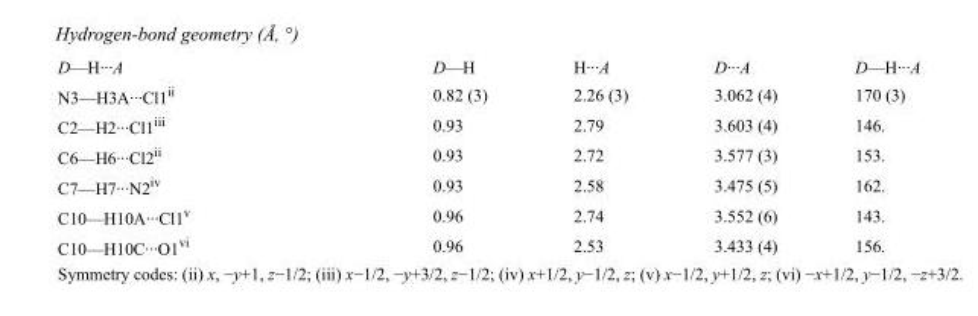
<table><tbody><tr><td>D—H···A</td><td>D—H</td><td>H···A</td><td>D···A</td><td>D—H···A</td></tr><tr><td>N3—H3A···Cl1<sup>ii</sup></td><td>0.82 (3)</td><td>2.26 (3)</td><td>3.062 (4)</td><td>170 (3)</td></tr><tr><td>C2—H2···Cl1<sup>iii</sup></td><td>0.93</td><td>2.79</td><td>3.603 (4)</td><td>146.</td></tr><tr><td>C6—H6···Cl2<sup>ii</sup></td><td>0.93</td><td>2.72</td><td>3.577 (3)</td><td>153.</td></tr><tr><td>C7—H7···N2<sup>iv</sup></td><td>0.93</td><td>2.58</td><td>3.475 (5)</td><td>162.</td></tr><tr><td>C10—H10A···Cl1<sup>v</sup></td><td>0.96</td><td>2.74</td><td>3.552 (6)</td><td>143.</td></tr><tr><td>C10—H10C···O1<sup>vi</sup></td><td>0.96</td><td>2.53</td><td>3.433 (4)</td><td>156.</td></tr></tbody></table>